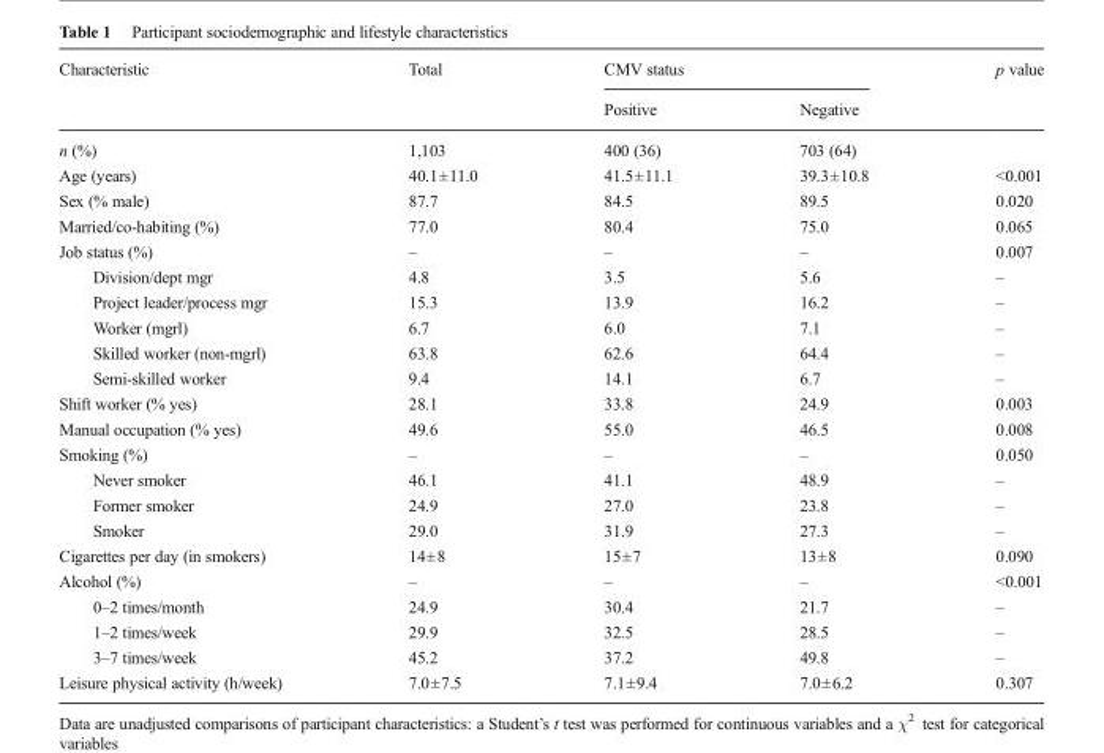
<table><thead><tr><td rowspan="2">Characteristic</td><td rowspan="2">Total</td><td colspan="2">CMV status</td><td rowspan="2">p value</td></tr><tr><td>Positive</td><td>Negative</td></tr></thead><tbody><tr><td>n (%)</td><td>1,103</td><td>400 (36)</td><td>703 (64)</td><td></td></tr><tr><td>Age (years)</td><td>40.1±11.0</td><td>41.5±11.1</td><td>39.3±10.8</td><td>&lt;0.001</td></tr><tr><td>Sex (% male)</td><td>87.7</td><td>84.5</td><td>89.5</td><td>0.020</td></tr><tr><td>Married/co-habiting (%)</td><td>77.0</td><td>80.4</td><td>75.0</td><td>0.065</td></tr><tr><td>Job status (%)</td><td>–</td><td>–</td><td>–</td><td>0.007</td></tr><tr><td>Division/dept mgr</td><td>4.8</td><td>3.5</td><td>5.6</td><td>–</td></tr><tr><td>Project leader/process mgr</td><td>15.3</td><td>13.9</td><td>16.2</td><td>–</td></tr><tr><td>Worker (mgrl)</td><td>6.7</td><td>6.0</td><td>7.1</td><td>–</td></tr><tr><td>Skilled worker (non-mgrl)</td><td>63.8</td><td>62.6</td><td>64.4</td><td>–</td></tr><tr><td>Semi-skilled worker</td><td>9.4</td><td>14.1</td><td>6.7</td><td>–</td></tr><tr><td>Shift worker (% yes)</td><td>28.1</td><td>33.8</td><td>24.9</td><td>0.003</td></tr><tr><td>Manual occupation (% yes)</td><td>49.6</td><td>55.0</td><td>46.5</td><td>0.008</td></tr><tr><td>Smoking (%)</td><td>–</td><td>–</td><td>–</td><td>0.050</td></tr><tr><td>Never smoker</td><td>46.1</td><td>41.1</td><td>48.9</td><td>–</td></tr><tr><td>Former smoker</td><td>24.9</td><td>27.0</td><td>23.8</td><td>–</td></tr><tr><td>Smoker</td><td>29.0</td><td>31.9</td><td>27.3</td><td>–</td></tr><tr><td>Cigarettes per day (in smokers)</td><td>14±8</td><td>15±7</td><td>13±8</td><td>0.090</td></tr><tr><td>Alcohol (%)</td><td>–</td><td>–</td><td>–</td><td>&lt;0.001</td></tr><tr><td>0–2 times/month</td><td>24.9</td><td>30.4</td><td>21.7</td><td>–</td></tr><tr><td>1–2 times/week</td><td>29.9</td><td>32.5</td><td>28.5</td><td>–</td></tr><tr><td>3–7 times/week</td><td>45.2</td><td>37.2</td><td>49.8</td><td>–</td></tr><tr><td>Leisure physical activity (h/week)</td><td>7.0±7.5</td><td>7.1±9.4</td><td>7.0±6.2</td><td>0.307</td></tr></tbody></table>